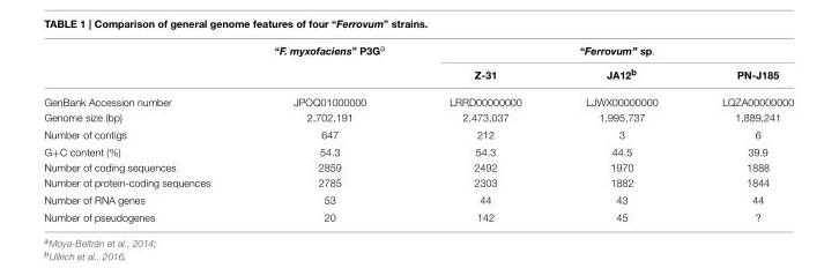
<table><thead><tr><td rowspan="2"></td><td rowspan="2">“F. myxofaciens” P3G<sup>a</sup></td><td colspan="3">“Ferrovum” sp.</td></tr><tr><td>Z-31</td><td>JA12<sup>b</sup></td><td>PN-J185</td></tr></thead><tbody><tr><td>GenBank Accession number</td><td>JPOQ01000000</td><td>LRRD00000000</td><td>LJWX00000000</td><td>LQZA00000000</td></tr><tr><td>Genome size (bp)</td><td>2,702,191</td><td>2,473,037</td><td>1,995,737</td><td>1,889,241</td></tr><tr><td>Number of contigs</td><td>647</td><td>212</td><td>3</td><td>6</td></tr><tr><td>G+C content (%)</td><td>54.3</td><td>54.3</td><td>44.5</td><td>39.9</td></tr><tr><td>Number of coding sequences</td><td>2859</td><td>2492</td><td>1970</td><td>1888</td></tr><tr><td>Number of protein-coding sequences</td><td>2785</td><td>2303</td><td>1882</td><td>1844</td></tr><tr><td>Number of RNA genes</td><td>53</td><td>44</td><td>43</td><td>44</td></tr><tr><td>Number of pseudogenes</td><td>20</td><td>142</td><td>45</td><td>?</td></tr></tbody></table>